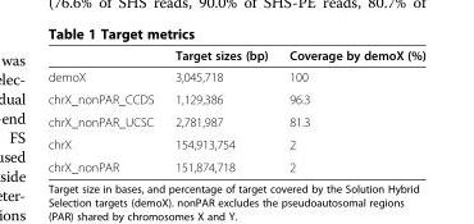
<table><thead><tr><td></td><td>Target sizes (bp)</td><td>Coverage by demoX (%)</td></tr></thead><tbody><tr><td>demoX</td><td>3,045,718</td><td>100</td></tr><tr><td>chrX_nonPAR_CCDS</td><td>1,129,386</td><td>96.3</td></tr><tr><td>chrX_nonPAR_UCSC</td><td>2,781,987</td><td>81.3</td></tr><tr><td>chrX</td><td>154,913,754</td><td>2</td></tr><tr><td>chrX_nonPAR</td><td>151,874,718</td><td>2</td></tr></tbody></table>